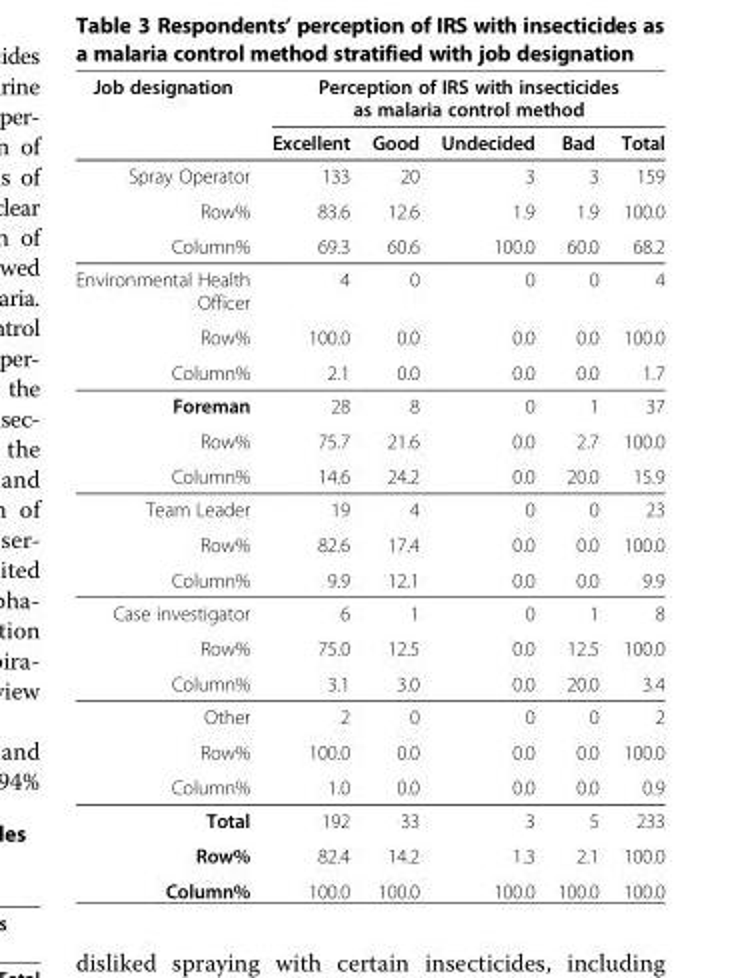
<table><thead><tr><td rowspan="2">Job designation</td><td colspan="5">Perception of IRS with insecticides as malaria control method</td></tr><tr><td>Excellent</td><td>Good</td><td>Undecided</td><td>Bad</td><td>Total</td></tr></thead><tbody><tr><td>Spray Operator</td><td>133</td><td>20</td><td>3</td><td>3</td><td>159</td></tr><tr><td>Row%</td><td>83.6</td><td>12.6</td><td>1.9</td><td>1.9</td><td>100.0</td></tr><tr><td>Column%</td><td>69.3</td><td>60.6</td><td>100.0</td><td>60.0</td><td>68.2</td></tr><tr><td>Environmental Health Officer</td><td>4</td><td>0</td><td>0</td><td>0</td><td>4</td></tr><tr><td>Row%</td><td>100.0</td><td>0.0</td><td>0.0</td><td>0.0</td><td>100.0</td></tr><tr><td>Column%</td><td>2.1</td><td>0.0</td><td>0.0</td><td>0.0</td><td>1.7</td></tr><tr><td>Foreman</td><td>28</td><td>8</td><td>0</td><td>1</td><td>37</td></tr><tr><td>Row%</td><td>75.7</td><td>21.6</td><td>0.0</td><td>2.7</td><td>100.0</td></tr><tr><td>Column%</td><td>14.6</td><td>24.2</td><td>0.0</td><td>20.0</td><td>15.9</td></tr><tr><td>Team Leader</td><td>19</td><td>4</td><td>0</td><td>0</td><td>23</td></tr><tr><td>Row%</td><td>82.6</td><td>17.4</td><td>0.0</td><td>0.0</td><td>100.0</td></tr><tr><td>Column%</td><td>9.9</td><td>12.1</td><td>0.0</td><td>0.0</td><td>9.9</td></tr><tr><td>Case investigator</td><td>6</td><td>1</td><td>0</td><td>1</td><td>8</td></tr><tr><td>Row%</td><td>75.0</td><td>12.5</td><td>0.0</td><td>12.5</td><td>100.0</td></tr><tr><td>Column%</td><td>3.1</td><td>3.0</td><td>0.0</td><td>20.0</td><td>3.4</td></tr><tr><td>Other</td><td>2</td><td>0</td><td>0</td><td>0</td><td>2</td></tr><tr><td>Row%</td><td>100.0</td><td>0.0</td><td>0.0</td><td>0.0</td><td>100.0</td></tr><tr><td>Column%</td><td>1.0</td><td>0.0</td><td>0.0</td><td>0.0</td><td>0.9</td></tr><tr><td>Total</td><td>192</td><td>33</td><td>3</td><td>5</td><td>233</td></tr><tr><td>Row%</td><td>82.4</td><td>14.2</td><td>1.3</td><td>2.1</td><td>100.0</td></tr><tr><td>Column%</td><td>100.0</td><td>100.0</td><td>100.0</td><td>100.0</td><td>100.0</td></tr></tbody></table>